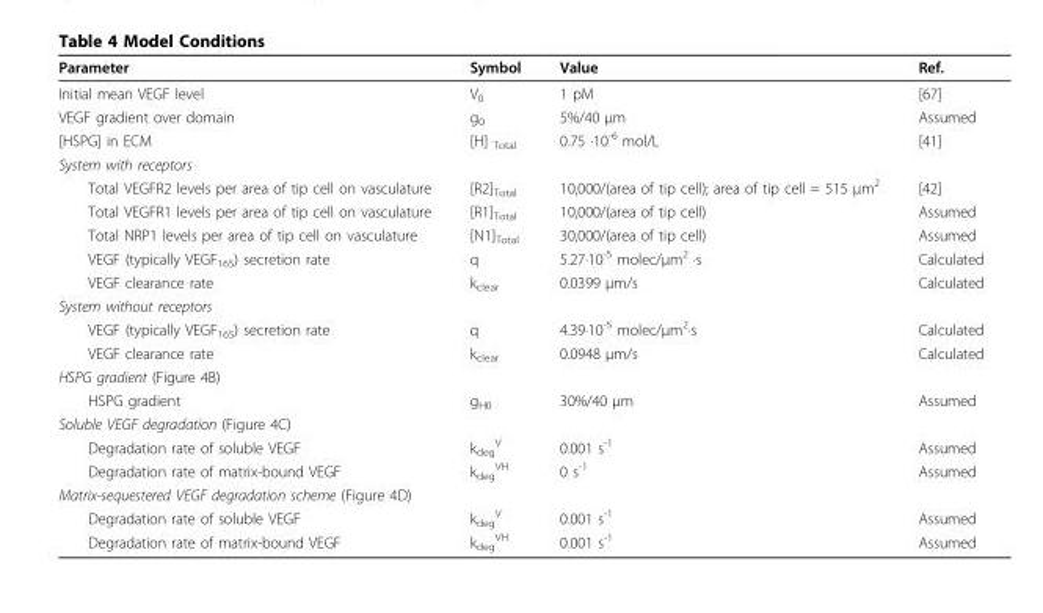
<table><thead><tr><td>Parameter</td><td>Symbol</td><td>Value</td><td>Ref.</td></tr></thead><tbody><tr><td>Initial mean VEGF level</td><td>V<sub>0</sub></td><td>1 pM</td><td>[67]</td></tr><tr><td>VEGF gradient over domain</td><td>g<sub>0</sub></td><td>5%/40 μm</td><td>Assumed</td></tr><tr><td>[HSPG] in ECM</td><td>[H] <sub>Total</sub></td><td>0.75 ·10<sup>-6</sup> mol/L</td><td>[41]</td></tr><tr><td colspan="4">System with receptors</td></tr><tr><td>Total VEGFR2 levels per area of tip cell on vasculature</td><td>[R2]<sub>Total</sub></td><td>10,000/(area of tip cell); area of tip cell = 515 μm<sup>2</sup></td><td>[42]</td></tr><tr><td>Total VEGFR1 levels per area of tip cell on vasculature</td><td>[R1]<sub>Total</sub></td><td>10,000/(area of tip cell)</td><td>Assumed</td></tr><tr><td>Total NRP1 levels per area of tip cell on vasculature</td><td>[N1]<sub>Total</sub></td><td>30,000/(area of tip cell)</td><td>Assumed</td></tr><tr><td>VEGF (typically VEGF<sub>165</sub>) secretion rate</td><td>q</td><td>5.27·10<sup>-5</sup> molec/μm<sup>2</sup> ·s</td><td>Calculated</td></tr><tr><td>VEGF clearance rate</td><td>k<sub>clear</sub></td><td>0.0399 μm/s</td><td>Calculated</td></tr><tr><td colspan="4">System without receptors</td></tr><tr><td>VEGF (typically VEGF<sub>165</sub>) secretion rate</td><td>q</td><td>4.39·10<sup>-5</sup> molec/μm<sup>2</sup>·s</td><td>Calculated</td></tr><tr><td>VEGF clearance rate</td><td>k<sub>clear</sub></td><td>0.0948 μm/s</td><td>Calculated</td></tr><tr><td colspan="4">HSPG gradient (Figure 4B)</td></tr><tr><td>HSPG gradient</td><td>g<sub>H0</sub></td><td>30%/40 μm</td><td>Assumed</td></tr><tr><td colspan="4">Soluble VEGF degradation (Figure 4C)</td></tr><tr><td>Degradation rate of soluble VEGF</td><td>k<sub>deg</sub> <sup>V</sup></td><td>0.001 s<sup>-1</sup></td><td>Assumed</td></tr><tr><td>Degradation rate of matrix-bound VEGF</td><td>k<sub>deg</sub> <sup>VH</sup></td><td>0 s<sup>-1</sup></td><td>Assumed</td></tr><tr><td colspan="4">Matrix-sequestered VEGF degradation scheme (Figure 4D)</td></tr><tr><td>Degradation rate of soluble VEGF</td><td>k<sub>deg</sub> <sup>V</sup></td><td>0.001 s<sup>-1</sup></td><td>Assumed</td></tr><tr><td>Degradation rate of matrix-bound VEGF</td><td>k<sub>deg</sub> <sup>VH</sup></td><td>0.001 s<sup>-1</sup></td><td>Assumed</td></tr></tbody></table>